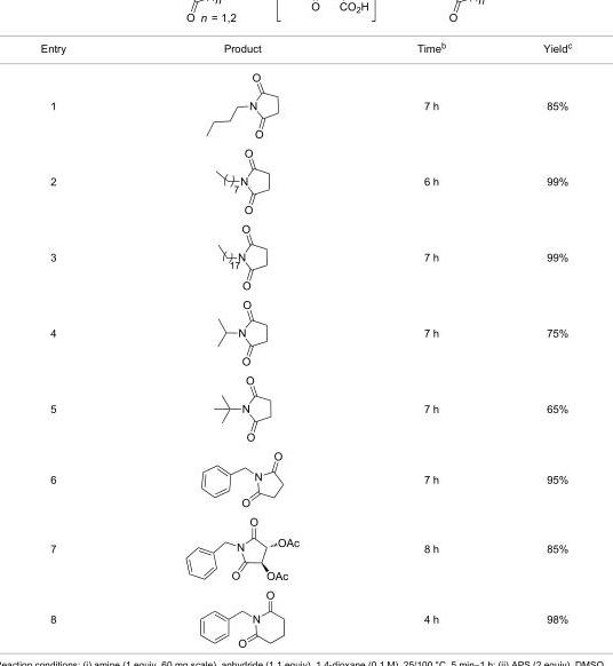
<table><tbody><tr><td>Entry</td><td>Product</td><td>Time<sup>b</sup></td><td>Yield<sup>c</sup></td></tr><tr><td>1</td><td></td><td>7 h</td><td>85%</td></tr><tr><td>2</td><td></td><td>6 h</td><td>99%</td></tr><tr><td>3</td><td></td><td>7 h</td><td>99%</td></tr><tr><td>4</td><td></td><td>7 h</td><td>75%</td></tr><tr><td>5</td><td></td><td>7 h</td><td>65%</td></tr><tr><td>6</td><td></td><td>7 h</td><td>95%</td></tr><tr><td>7</td><td></td><td>8 h</td><td>85%</td></tr><tr><td>8</td><td></td><td>4 h</td><td>98%</td></tr></tbody></table>